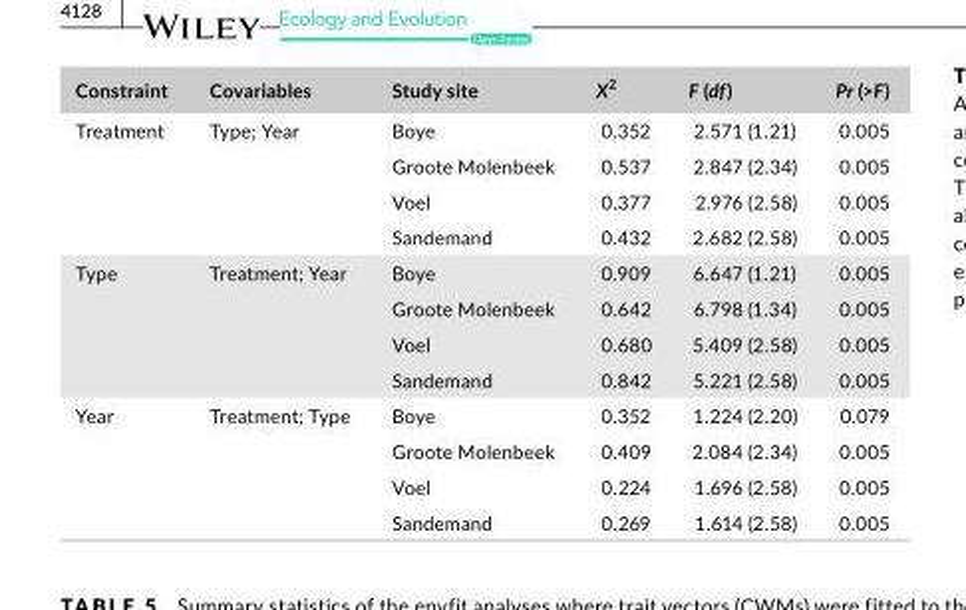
<table><thead><tr><td>Constraint</td><td>Covariables</td><td>Study site</td><td>X<sup>2</sup></td><td>F (df)</td><td>Pr (&gt;F)</td></tr></thead><tbody><tr><td rowspan="4">Treatment</td><td rowspan="4">Type; Year</td><td>Boye</td><td>0.352</td><td>2.571 (1.21)</td><td>0.005</td></tr><tr><td>Groote Molenbeek</td><td>0.537</td><td>2.847 (2.34)</td><td>0.005</td></tr><tr><td>Voel</td><td>0.377</td><td>2.976 (2.58)</td><td>0.005</td></tr><tr><td>Sandemand</td><td>0.432</td><td>2.682 (2.58)</td><td>0.005</td></tr><tr><td rowspan="4">Type</td><td rowspan="4">Treatment; Year</td><td>Boye</td><td>0.909</td><td>6.647 (1.21)</td><td>0.005</td></tr><tr><td>Groote Molenbeek</td><td>0.642</td><td>6.798 (1.34)</td><td>0.005</td></tr><tr><td>Voel</td><td>0.680</td><td>5.409 (2.58)</td><td>0.005</td></tr><tr><td>Sandemand</td><td>0.842</td><td>5.221 (2.58)</td><td>0.005</td></tr><tr><td rowspan="4">Year</td><td rowspan="4">Treatment; Type</td><td>Boye</td><td>0.352</td><td>1.224 (2.20)</td><td>0.079</td></tr><tr><td>Groote Molenbeek</td><td>0.409</td><td>2.084 (2.34)</td><td>0.005</td></tr><tr><td>Voel</td><td>0.224</td><td>1.696 (2.58)</td><td>0.005</td></tr><tr><td>Sandemand</td><td>0.269</td><td>1.614 (2.58)</td><td>0.005</td></tr></tbody></table>